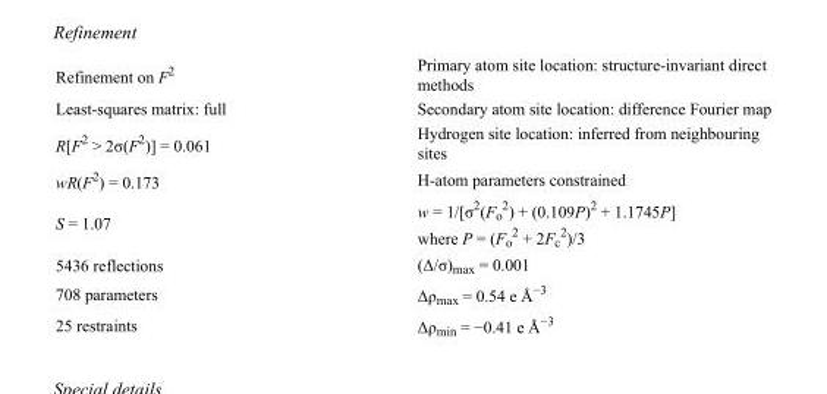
<table><tbody><tr><td>Refinement on F<sup>2</sup></td><td>Primary atom site location: structure-invariant direct methods</td></tr><tr><td>Least-squares matrix: full</td><td>Secondary atom site location: difference Fourier map</td></tr><tr><td>R[F<sup>2</sup> &gt; 2σ(F<sup>2</sup>)] = 0.061</td><td>Hydrogen site location: inferred from neighbouring sites</td></tr><tr><td>wR(F<sup>2</sup>) = 0.173</td><td>H-atom parameters constrained</td></tr><tr><td>S = 1.07</td><td>w = 1/[σ<sup>2</sup>(F<sub>o</sub> <sup>2</sup>) + (0.109P)<sup>2</sup> + 1.1745P] where P = (F<sub>o</sub> <sup>2</sup> + 2F<sub>c</sub> <sup>2</sup>)/3</td></tr><tr><td>5436 reflections</td><td>(Δ/σ)<sub>max</sub> = 0.001</td></tr><tr><td>708 parameters</td><td>Δρ<sub>max</sub> = 0.54 e Å<sup>−3</sup></td></tr><tr><td>25 restraints</td><td>Δρ<sub>min</sub> = −0.41 e Å<sup>−3</sup></td></tr></tbody></table>